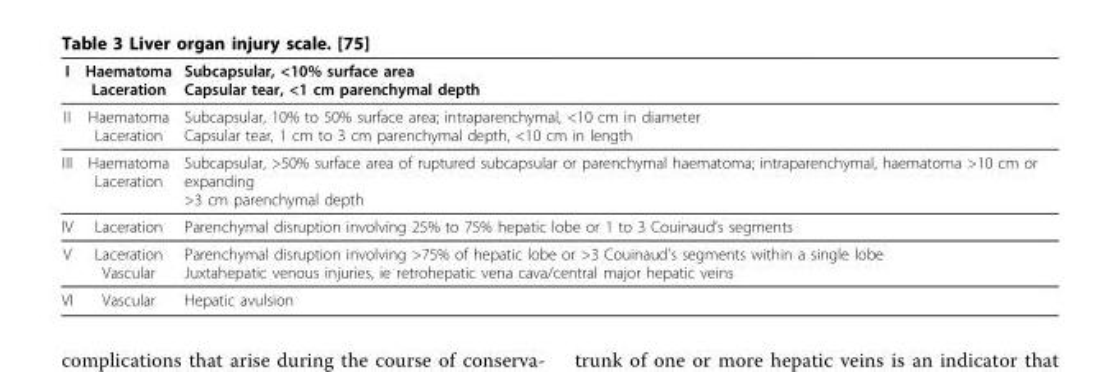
<table><thead><tr><td>I</td><td>Haematoma Laceration</td><td>Subcapsular, &lt;10% surface area Capsular tear, &lt;1 cm parenchymal depth</td></tr></thead><tbody><tr><td>II</td><td>Haematoma Laceration</td><td>Subcapsular, 10% to 50% surface area; intraparenchymal, &lt;10 cm in diameter Capsular tear, 1 cm to 3 cm parenchymal depth, &lt;10 cm in length</td></tr><tr><td>III</td><td>Haematoma Laceration</td><td>Subcapsular, &gt;50% surface area of ruptured subcapsular or parenchymal haematoma; intraparenchymal, haematoma &gt;10 cm or expanding &gt;3 cm parenchymal depth</td></tr><tr><td>IV</td><td>Laceration</td><td>Parenchymal disruption involving 25% to 75% hepatic lobe or 1 to 3 Couinaud’s segments</td></tr><tr><td>V</td><td>Laceration Vascular</td><td>Parenchymal disruption involving &gt;75% of hepatic lobe or &gt;3 Couinaud’s segments within a single lobe Juxtahepatic venous injuries, ie retrohepatic vena cava/central major hepatic veins</td></tr><tr><td>VI</td><td>Vascular</td><td>Hepatic avulsion</td></tr></tbody></table>